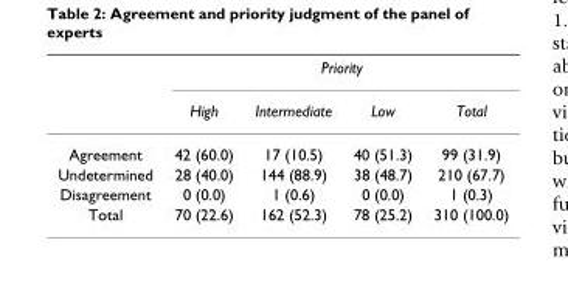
<table><thead><tr><td rowspan="2"></td><td colspan="4">Priority</td></tr><tr><td>High</td><td>Intermediate</td><td>Low</td><td>Total</td></tr></thead><tbody><tr><td>Agreement</td><td>42 (60.0)</td><td>17 (10.5)</td><td>40 (51.3)</td><td>99 (31.9)</td></tr><tr><td>Undetermined</td><td>28 (40.0)</td><td>144 (88.9)</td><td>38 (48.7)</td><td>210 (67.7)</td></tr><tr><td>Disagreement</td><td>0 (0.0)</td><td>1 (0.6)</td><td>0 (0.0)</td><td>1 (0.3)</td></tr><tr><td>Total</td><td>70 (22.6)</td><td>162 (52.3)</td><td>78 (25.2)</td><td>310 (100.0)</td></tr></tbody></table>